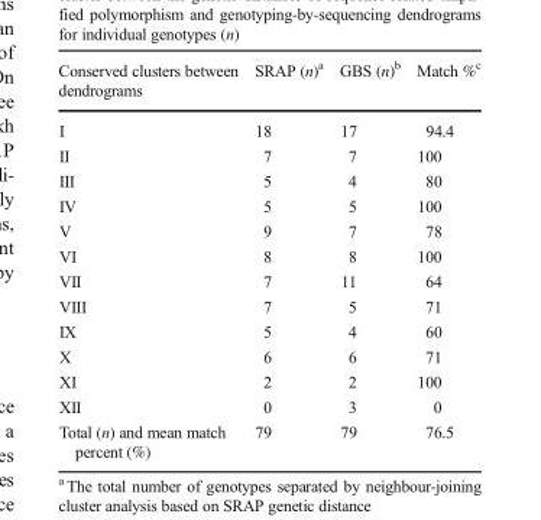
<table><thead><tr><td>Conserved clusters between dendrograms</td><td>SRAP (n)<sup>a</sup></td><td>GBS (n)<sup>b</sup></td><td>Match %<sup>c</sup></td></tr></thead><tbody><tr><td>I</td><td>18</td><td>17</td><td>94.4</td></tr><tr><td>II</td><td>7</td><td>7</td><td>100</td></tr><tr><td>III</td><td>5</td><td>4</td><td>80</td></tr><tr><td>IV</td><td>5</td><td>5</td><td>100</td></tr><tr><td>V</td><td>9</td><td>7</td><td>78</td></tr><tr><td>VI</td><td>8</td><td>8</td><td>100</td></tr><tr><td>VII</td><td>7</td><td>11</td><td>64</td></tr><tr><td>VIII</td><td>7</td><td>5</td><td>71</td></tr><tr><td>IX</td><td>5</td><td>4</td><td>60</td></tr><tr><td>X</td><td>6</td><td>6</td><td>71</td></tr><tr><td>XI</td><td>2</td><td>2</td><td>100</td></tr><tr><td>XII</td><td>0</td><td>3</td><td>0</td></tr><tr><td>Total (n) and mean match percent (%)</td><td>79</td><td>79</td><td>76.5</td></tr></tbody></table>